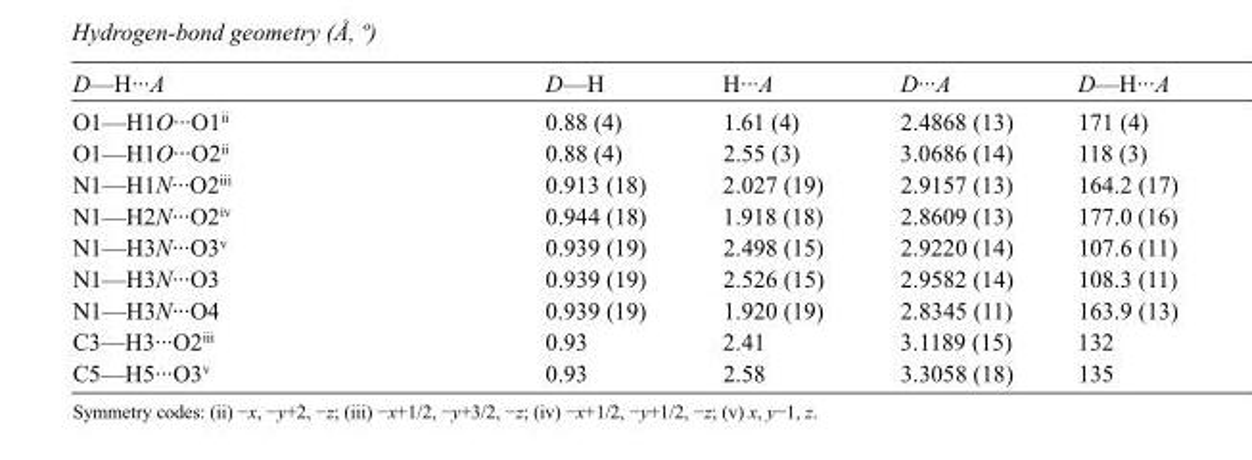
<table><tbody><tr><td>D—H···A</td><td>D—H</td><td>H···A</td><td>D···A</td><td>D—H···A</td></tr><tr><td>O1—H1O···O1<sup>ii</sup></td><td>0.88 (4)</td><td>1.61 (4)</td><td>2.4868 (13)</td><td>171 (4)</td></tr><tr><td>O1—H1O···O2<sup>ii</sup></td><td>0.88 (4)</td><td>2.55 (3)</td><td>3.0686 (14)</td><td>118 (3)</td></tr><tr><td>N1—H1N···O2<sup>iii</sup></td><td>0.913 (18)</td><td>2.027 (19)</td><td>2.9157 (13)</td><td>164.2 (17)</td></tr><tr><td>N1—H2N···O2<sup>iv</sup></td><td>0.944 (18)</td><td>1.918 (18)</td><td>2.8609 (13)</td><td>177.0 (16)</td></tr><tr><td>N1—H3N···O3<sup>v</sup></td><td>0.939 (19)</td><td>2.498 (15)</td><td>2.9220 (14)</td><td>107.6 (11)</td></tr><tr><td>N1—H3N···O3</td><td>0.939 (19)</td><td>2.526 (15)</td><td>2.9582 (14)</td><td>108.3 (11)</td></tr><tr><td>N1—H3N···O4</td><td>0.939 (19)</td><td>1.920 (19)</td><td>2.8345 (11)</td><td>163.9 (13)</td></tr><tr><td>C3—H3···O2<sup>iii</sup></td><td>0.93</td><td>2.41</td><td>3.1189 (15)</td><td>132</td></tr><tr><td>C5—H5···O3<sup>v</sup></td><td>0.93</td><td>2.58</td><td>3.3058 (18)</td><td>135</td></tr></tbody></table>